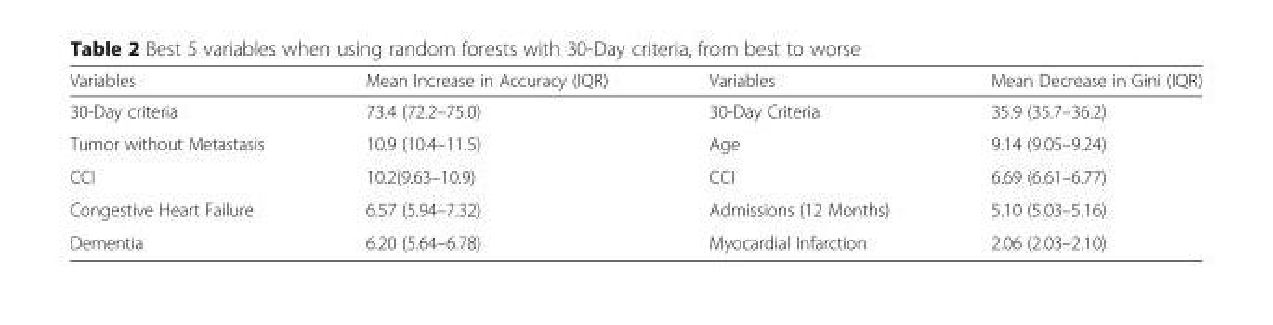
<table><thead><tr><td>Variables</td><td>Mean Increase in Accuracy (IQR)</td><td>Variables</td><td>Mean Decrease in Gini (IQR)</td></tr></thead><tbody><tr><td>30-Day criteria</td><td>73.4 (72.2–75.0)</td><td>30-Day Criteria</td><td>35.9 (35.7–36.2)</td></tr><tr><td>Tumor without Metastasis</td><td>10.9 (10.4–11.5)</td><td>Age</td><td>9.14 (9.05–9.24)</td></tr><tr><td>CCI</td><td>10.2(9.63–10.9)</td><td>CCI</td><td>6.69 (6.61–6.77)</td></tr><tr><td>Congestive Heart Failure</td><td>6.57 (5.94–7.32)</td><td>Admissions (12 Months)</td><td>5.10 (5.03–5.16)</td></tr><tr><td>Dementia</td><td>6.20 (5.64–6.78)</td><td>Myocardial Infarction</td><td>2.06 (2.03–2.10)</td></tr></tbody></table>